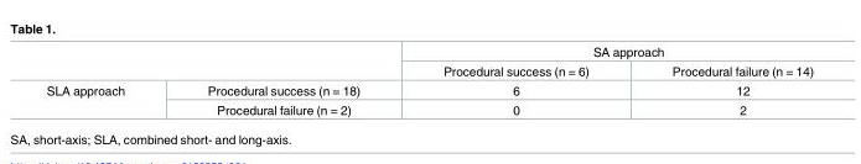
<table><thead><tr><td rowspan="2"></td><td rowspan="2"></td><td colspan="2">SA approach</td></tr><tr><td>Procedural success (n = 6)</td><td>Procedural failure (n = 14)</td></tr></thead><tbody><tr><td rowspan="2">SLA approach</td><td>Procedural success (n = 18)</td><td>6</td><td>12</td></tr><tr><td>Procedural failure (n = 2)</td><td>0</td><td>2</td></tr></tbody></table>